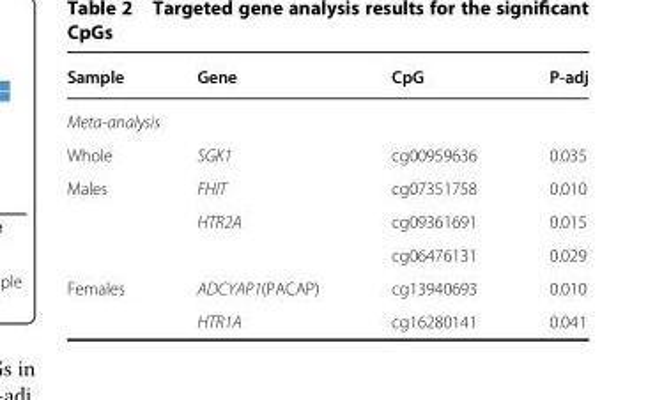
<table><thead><tr><td>Sample</td><td>Gene</td><td>CpG</td><td>P-adj</td></tr></thead><tbody><tr><td colspan="4">Meta-analysis</td></tr><tr><td>Whole</td><td>SGK1</td><td>cg00959636</td><td>0.035</td></tr><tr><td rowspan="3">Males</td><td>FHIT</td><td>cg07351758</td><td>0.010</td></tr><tr><td>HTR2A</td><td>cg09361691</td><td>0.015</td></tr><tr><td></td><td>cg06476131</td><td>0.029</td></tr><tr><td rowspan="2">Females</td><td>ADCYAP1(PACAP)</td><td>cg13940693</td><td>0.010</td></tr><tr><td>HTR1A</td><td>cg16280141</td><td>0.041</td></tr></tbody></table>